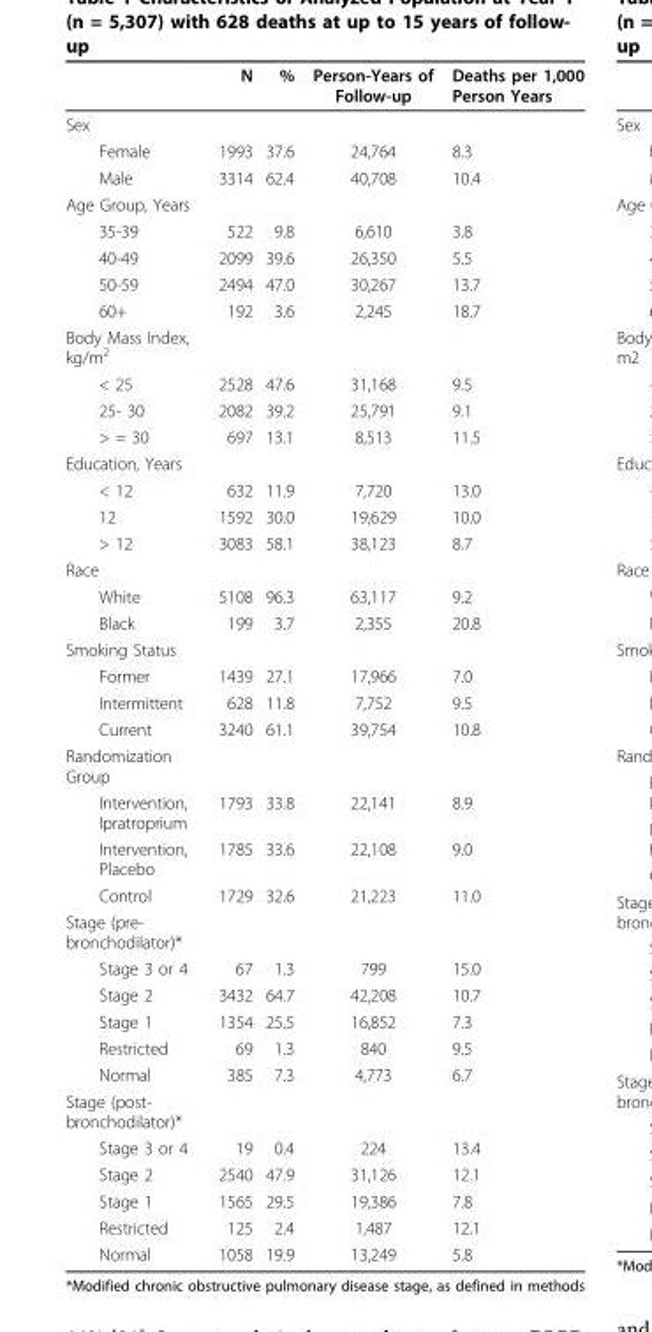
<table><thead><tr><td></td><td>N</td><td>%</td><td>Person-Years of Follow-up</td><td>Deaths per 1,000 Person Years</td></tr></thead><tbody><tr><td colspan="5">Sex</td></tr><tr><td>Female</td><td>1993</td><td>37.6</td><td>24,764</td><td>8.3</td></tr><tr><td>Male</td><td>3314</td><td>62.4</td><td>40,708</td><td>10.4</td></tr><tr><td colspan="5">Age Group, Years</td></tr><tr><td>35-39</td><td>522</td><td>9.8</td><td>6,610</td><td>3.8</td></tr><tr><td>40-49</td><td>2099</td><td>39.6</td><td>26,350</td><td>5.5</td></tr><tr><td>50-59</td><td>2494</td><td>47.0</td><td>30,267</td><td>13.7</td></tr><tr><td>60+</td><td>192</td><td>3.6</td><td>2,245</td><td>18.7</td></tr><tr><td colspan="5">Body Mass Index, kg/m<sup>2</sup></td></tr><tr><td>&lt; 25</td><td>2528</td><td>47.6</td><td>31,168</td><td>9.5</td></tr><tr><td>25- 30</td><td>2082</td><td>39.2</td><td>25,791</td><td>9.1</td></tr><tr><td>&gt; = 30</td><td>697</td><td>13.1</td><td>8,513</td><td>11.5</td></tr><tr><td colspan="5">Education, Years</td></tr><tr><td>&lt; 12</td><td>632</td><td>11.9</td><td>7,720</td><td>13.0</td></tr><tr><td>12</td><td>1592</td><td>30.0</td><td>19,629</td><td>10.0</td></tr><tr><td>&gt; 12</td><td>3083</td><td>58.1</td><td>38,123</td><td>8.7</td></tr><tr><td colspan="5">Race</td></tr><tr><td>White</td><td>5108</td><td>96.3</td><td>63,117</td><td>9.2</td></tr><tr><td>Black</td><td>199</td><td>3.7</td><td>2,355</td><td>20.8</td></tr><tr><td colspan="5">Smoking Status</td></tr><tr><td>Former</td><td>1439</td><td>27.1</td><td>17,966</td><td>7.0</td></tr><tr><td>Intermittent</td><td>628</td><td>11.8</td><td>7,752</td><td>9.5</td></tr><tr><td>Current</td><td>3240</td><td>61.1</td><td>39,754</td><td>10.8</td></tr><tr><td colspan="5">Randomization Group</td></tr><tr><td>Intervention, Ipratroprium</td><td>1793</td><td>33.8</td><td>22,141</td><td>8.9</td></tr><tr><td>Intervention, Placebo</td><td>1785</td><td>33.6</td><td>22,108</td><td>9.0</td></tr><tr><td>Control</td><td>1729</td><td>32.6</td><td>21,223</td><td>11.0</td></tr><tr><td colspan="5">Stage (pre- bronchodilator)*</td></tr><tr><td>Stage 3 or 4</td><td>67</td><td>1.3</td><td>799</td><td>15.0</td></tr><tr><td>Stage 2</td><td>3432</td><td>64.7</td><td>42,208</td><td>10.7</td></tr><tr><td>Stage 1</td><td>1354</td><td>25.5</td><td>16,852</td><td>7.3</td></tr><tr><td>Restricted</td><td>69</td><td>1.3</td><td>840</td><td>9.5</td></tr><tr><td>Normal</td><td>385</td><td>7.3</td><td>4,773</td><td>6.7</td></tr><tr><td colspan="5">Stage (post- bronchodilator)*</td></tr><tr><td>Stage 3 or 4</td><td>19</td><td>0.4</td><td>224</td><td>13.4</td></tr><tr><td>Stage 2</td><td>2540</td><td>47.9</td><td>31,126</td><td>12.1</td></tr><tr><td>Stage 1</td><td>1565</td><td>29.5</td><td>19,386</td><td>7.8</td></tr><tr><td>Restricted</td><td>125</td><td>2.4</td><td>1,487</td><td>12.1</td></tr><tr><td>Normal</td><td>1058</td><td>19.9</td><td>13,249</td><td>5.8</td></tr></tbody></table>